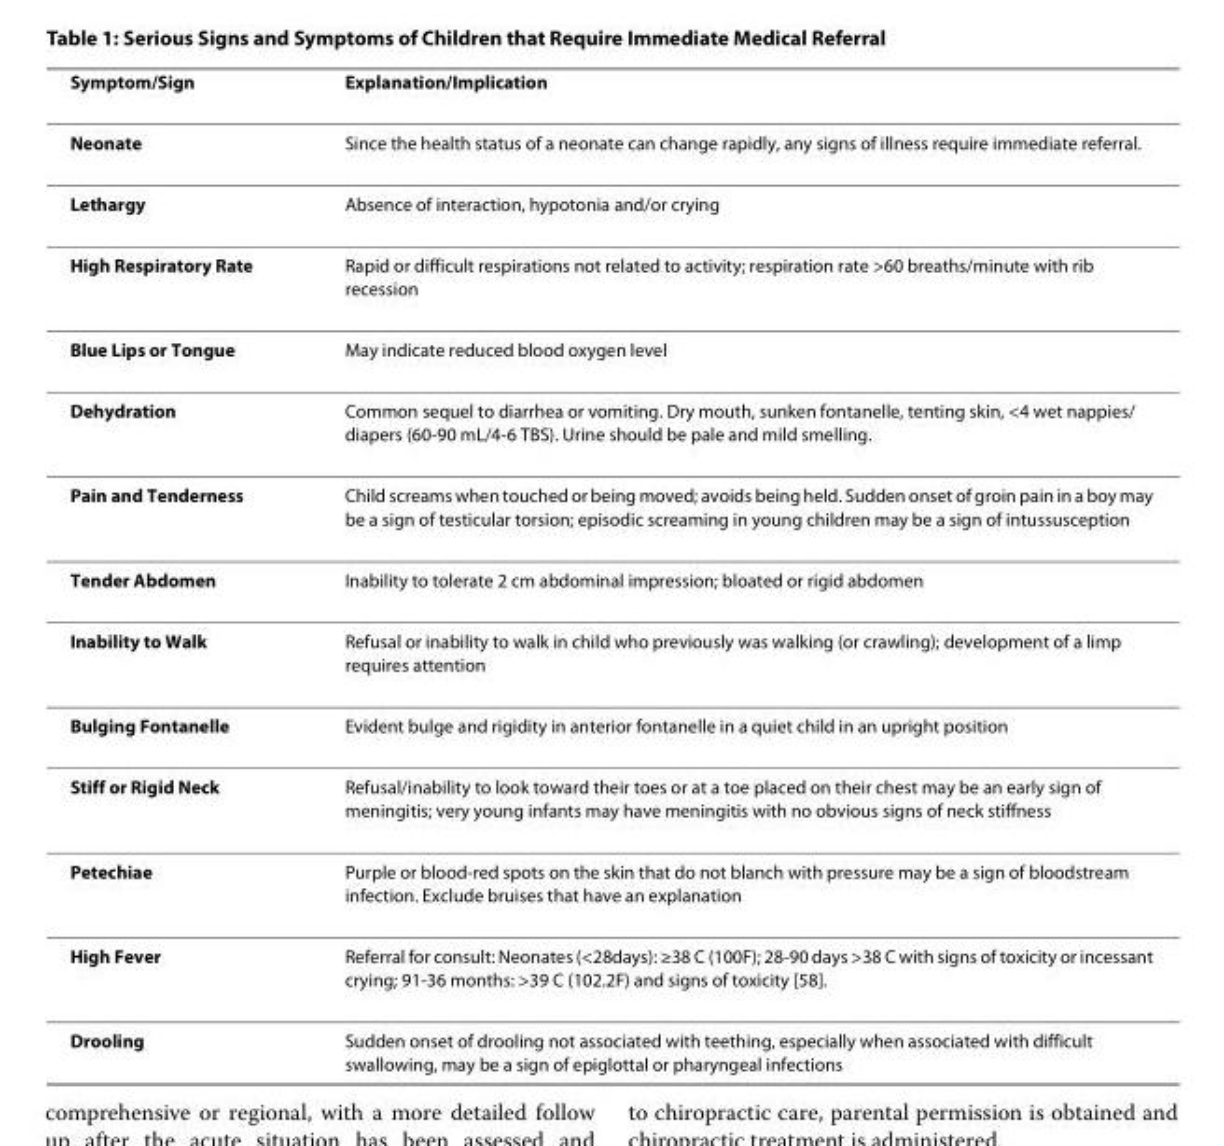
<table><thead><tr><td>Symptom/Sign</td><td>Explanation/Implication</td></tr></thead><tbody><tr><td>Neonate</td><td>Since the health status of a neonate can change rapidly, any signs of illness require immediate referral.</td></tr><tr><td>Lethargy</td><td>Absence of interaction, hypotonia and/or crying</td></tr><tr><td>High Respiratory Rate</td><td>Rapid or difficult respirations not related to activity; respiration rate &gt;60 breaths/minute with rib recession</td></tr><tr><td>Blue Lips or Tongue</td><td>May indicate reduced blood oxygen level</td></tr><tr><td>Dehydration</td><td>Common sequel to diarrhea or vomiting. Dry mouth, sunken fontanelle, tenting skin, &lt;4 wet nappies/ diapers (60-90 mL/4-6 TBS). Urine should be pale and mild smelling.</td></tr><tr><td>Pain and Tenderness</td><td>Child screams when touched or being moved; avoids being held. Sudden onset of groin pain in a boy may be a sign of testicular torsion; episodic screaming in young children may be a sign of intussusception</td></tr><tr><td>Tender Abdomen</td><td>Inability to tolerate 2 cm abdominal impression; bloated or rigid abdomen</td></tr><tr><td>Inability to Walk</td><td>Refusal or inability to walk in child who previously was walking (or crawling); development of a limp requires attention</td></tr><tr><td>Bulging Fontanelle</td><td>Evident bulge and rigidity in anterior fontanelle in a quiet child in an upright position</td></tr><tr><td>Stiff or Rigid Neck</td><td>Refusal/inability to look toward their toes or at a toe placed on their chest may be an early sign of meningitis; very young infants may have meningitis with no obvious signs of neck stiffness</td></tr><tr><td>Petechiae</td><td>Purple or blood-red spots on the skin that do not blanch with pressure may be a sign of bloodstream infection. Exclude bruises that have an explanation</td></tr><tr><td>High Fever</td><td>Referral for consult: Neonates (&lt;28days): ≥38 C (100F); 28-90 days &gt;38 C with signs of toxicity or incessant crying; 91-36 months: &gt;39 C (102.2F) and signs of toxicity [58].</td></tr><tr><td>Drooling</td><td>Sudden onset of drooling not associated with teething, especially when associated with difficult swallowing, may be a sign of epiglottal or pharyngeal infections</td></tr></tbody></table>